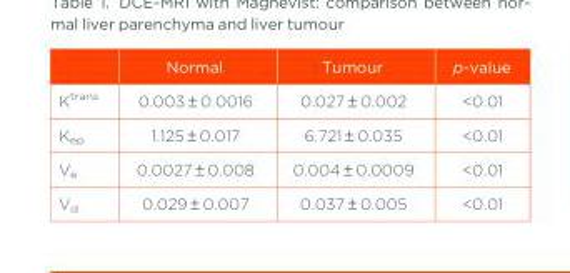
<table><thead><tr><td></td><td>Normal</td><td>Tumour</td><td>p-value</td></tr></thead><tbody><tr><td>K<sup>trans</sup></td><td>0.003 ± 0.0016</td><td>0.027 ± 0.002</td><td>&lt;0.01</td></tr><tr><td>K<sub>ep</sub></td><td>1.125 ± 0.017</td><td>6.721 ± 0.035</td><td>&lt;0.01</td></tr><tr><td>V<sub>e</sub></td><td>0.0027 ± 0.008</td><td>0.004 ± 0.0009</td><td>&lt;0.01</td></tr><tr><td>V<sub>d</sub></td><td>0.029 ± 0.007</td><td>0.037 ± 0.005</td><td>&lt;0.01</td></tr></tbody></table>